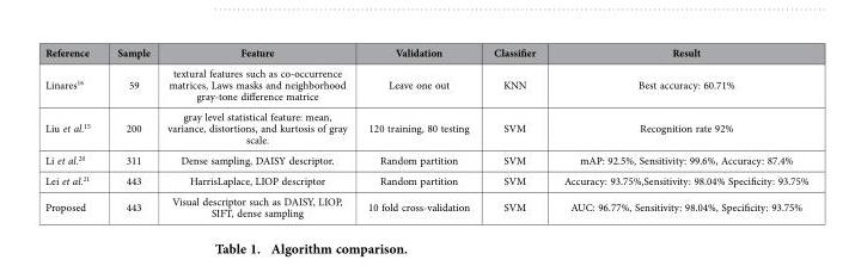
<table><thead><tr><td>Reference</td><td>Sample</td><td>Feature</td><td>Validation</td><td>Classifier</td><td>Result</td></tr></thead><tbody><tr><td>Linares<sup>16</sup></td><td>59</td><td>textural features such as co-occurrence matrices, Laws masks and neighborhood gray-tone difference matrice</td><td>Leave one out</td><td>KNN</td><td>Best accuracy: 60.71%</td></tr><tr><td>Liu et al.<sup>15</sup></td><td>200</td><td>gray level statistical feature: mean, variance, distortions, and kurtosis of gray scale.</td><td>120 training, 80 testing</td><td>SVM</td><td>Recognition rate 92%</td></tr><tr><td>Li et al.<sup>20</sup></td><td>311</td><td>Dense sampling, DAISY descriptor.</td><td>Random partition</td><td>SVM</td><td>mAP: 92.5%, Sensitivity: 99.6%, Accuracy: 87.4%</td></tr><tr><td>Lei et al.<sup>21</sup></td><td>443</td><td>HarrisLaplace, LIOP descriptor</td><td>Random partition</td><td>SVM</td><td>Accuracy: 93.75%,Sensitivity: 98.04% Specificity: 93.75%</td></tr><tr><td>Proposed</td><td>443</td><td>Visual descriptor such as DAISY, LIOP, SIFT, dense sampling</td><td>10 fold cross-validation</td><td>SVM</td><td>AUC: 96.77%, Sensitivity: 98.04%, Specificity: 93.75%</td></tr></tbody></table>